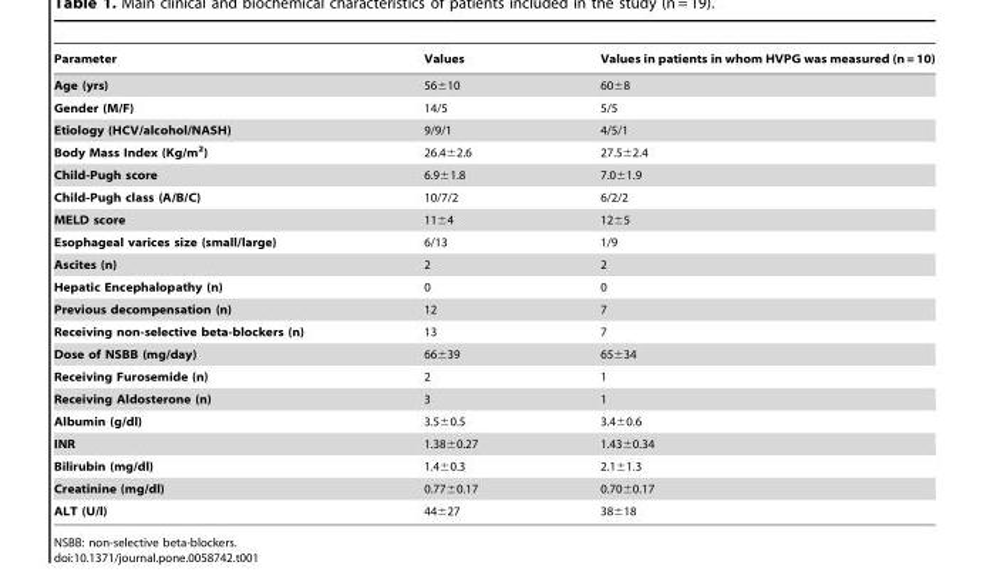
<table><thead><tr><td>Parameter</td><td>Values</td><td>Values in patients in whom HVPG was measured (n = 10)</td></tr></thead><tbody><tr><td>Age (yrs)</td><td>56±10</td><td>60±8</td></tr><tr><td>Gender (M/F)</td><td>14/5</td><td>5/5</td></tr><tr><td>Etiology (HCV/alcohol/NASH)</td><td>9/9/1</td><td>4/5/1</td></tr><tr><td>Body Mass Index (Kg/m<sup>2</sup>)</td><td>26.4±2.6</td><td>27.5±2.4</td></tr><tr><td>Child-Pugh score</td><td>6.9±1.8</td><td>7.0±1.9</td></tr><tr><td>Child-Pugh class (A/B/C)</td><td>10/7/2</td><td>6/2/2</td></tr><tr><td>MELD score</td><td>11±4</td><td>12±5</td></tr><tr><td>Esophageal varices size (small/large)</td><td>6/13</td><td>1/9</td></tr><tr><td>Ascites (n)</td><td>2</td><td>2</td></tr><tr><td>Hepatic Encephalopathy (n)</td><td>0</td><td>0</td></tr><tr><td>Previous decompensation (n)</td><td>12</td><td>7</td></tr><tr><td>Receiving non-selective beta-blockers (n)</td><td>13</td><td>7</td></tr><tr><td>Dose of NSBB (mg/day)</td><td>66±39</td><td>65±34</td></tr><tr><td>Receiving Furosemide (n)</td><td>2</td><td>1</td></tr><tr><td>Receiving Aldosterone (n)</td><td>3</td><td>1</td></tr><tr><td>Albumin (g/dl)</td><td>3.5±0.5</td><td>3.4±0.6</td></tr><tr><td>INR</td><td>1.38±0.27</td><td>1.43±0.34</td></tr><tr><td>Bilirubin (mg/dl)</td><td>1.4±0.3</td><td>2.1±1.3</td></tr><tr><td>Creatinine (mg/dl)</td><td>0.77±0.17</td><td>0.70±0.17</td></tr><tr><td>ALT (U/l)</td><td>44±27</td><td>38±18</td></tr></tbody></table>